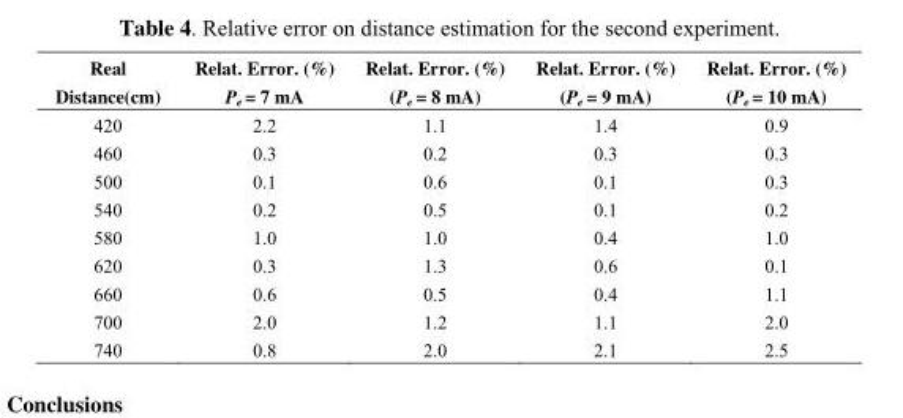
<table><thead><tr><td>Real Distance(cm)</td><td>Relat. Error. (%) P<sub>e</sub> = 7 mA</td><td>Relat. Error. (%) (P<sub>e</sub> = 8 mA)</td><td>Relat. Error. (%) (P<sub>e</sub> = 9 mA)</td><td>Relat. Error. (%) (P<sub>e</sub> = 10 mA)</td></tr></thead><tbody><tr><td>420</td><td>2.2</td><td>1.1</td><td>1.4</td><td>0.9</td></tr><tr><td>460</td><td>0.3</td><td>0.2</td><td>0.3</td><td>0.3</td></tr><tr><td>500</td><td>0.1</td><td>0.6</td><td>0.1</td><td>0.3</td></tr><tr><td>540</td><td>0.2</td><td>0.5</td><td>0.1</td><td>0.2</td></tr><tr><td>580</td><td>1.0</td><td>1.0</td><td>0.4</td><td>1.0</td></tr><tr><td>620</td><td>0.3</td><td>1.3</td><td>0.6</td><td>0.1</td></tr><tr><td>660</td><td>0.6</td><td>0.5</td><td>0.4</td><td>1.1</td></tr><tr><td>700</td><td>2.0</td><td>1.2</td><td>1.1</td><td>2.0</td></tr><tr><td>740</td><td>0.8</td><td>2.0</td><td>2.1</td><td>2.5</td></tr></tbody></table>